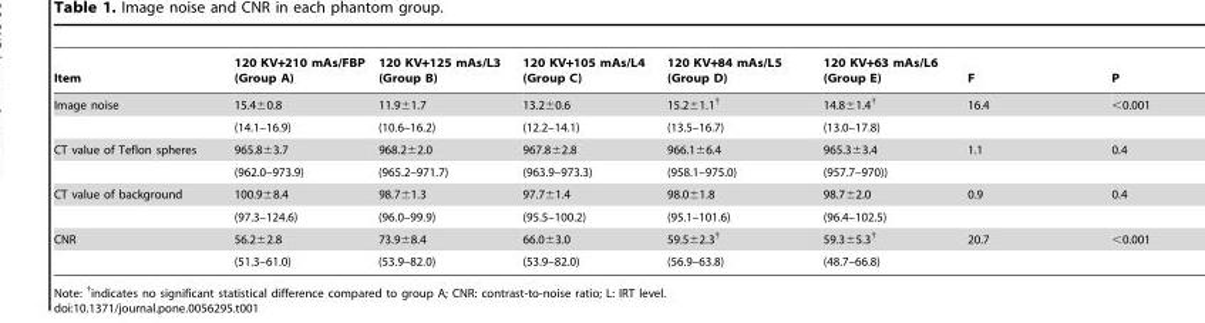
<table><thead><tr><td>Item</td><td>120 KV+210 mAs/FBP (Group A)</td><td>120 KV+125 mAs/L3 (Group B)</td><td>120 KV+105 mAs/L4 (Group C)</td><td>120 KV+84 mAs/L5 (Group D)</td><td>120 KV+63 mAs/L6 (Group E)</td><td>F</td><td>P</td></tr></thead><tbody><tr><td rowspan="2">Image noise</td><td>15.4±0.8</td><td>11.9±1.7</td><td>13.2±0.6</td><td>15.2±1.1<sup>†</sup></td><td>14.8±1.4<sup>†</sup></td><td>16.4</td><td>&lt;0.001</td></tr><tr><td>(14.1–16.9)</td><td>(10.6–16.2)</td><td>(12.2–14.1)</td><td>(13.5–16.7)</td><td>(13.0–17.8)</td><td></td><td></td></tr><tr><td rowspan="2">CT value of Teflon spheres</td><td>965.8±3.7</td><td>968.2±2.0</td><td>967.8±2.8</td><td>966.1±6.4</td><td>965.3±3.4</td><td>1.1</td><td>0.4</td></tr><tr><td>(962.0–973.9)</td><td>(965.2–971.7)</td><td>(963.9–973.3)</td><td>(958.1–975.0)</td><td>(957.7–970))</td><td></td><td></td></tr><tr><td rowspan="2">CT value of background</td><td>100.9±8.4</td><td>98.7±1.3</td><td>97.7±1.4</td><td>98.0±1.8</td><td>98.7±2.0</td><td>0.9</td><td>0.4</td></tr><tr><td>(97.3–124.6)</td><td>(96.0–99.9)</td><td>(95.5–100.2)</td><td>(95.1–101.6)</td><td>(96.4–102.5)</td><td></td><td></td></tr><tr><td rowspan="2">CNR</td><td>56.2±2.8</td><td>73.9±8.4</td><td>66.0±3.0</td><td>59.5±2.3<sup>†</sup></td><td>59.3±5.3<sup>†</sup></td><td>20.7</td><td>&lt;0.001</td></tr><tr><td>(51.3–61.0)</td><td>(53.9–82.0)</td><td>(53.9–82.0)</td><td>(56.9–63.8)</td><td>(48.7–66.8)</td><td></td><td></td></tr></tbody></table>